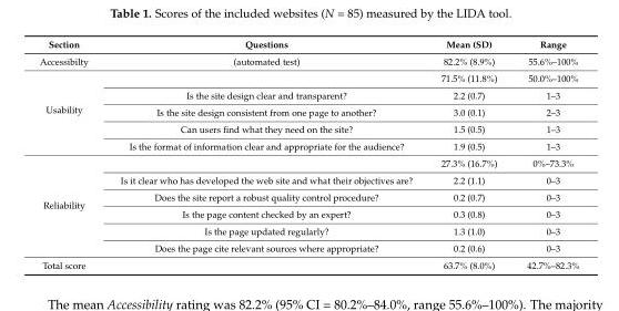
<table><thead><tr><td>Section</td><td>Questions</td><td>Mean (SD)</td><td>Range</td></tr></thead><tbody><tr><td>Accessibilty</td><td>(automated test)</td><td>82.2% (8.9%)</td><td>55.6%–100%</td></tr><tr><td rowspan="5">Usability</td><td></td><td>71.5% (11.8%)</td><td>50.0%–100%</td></tr><tr><td>Is the site design clear and transparent?</td><td>2.2 (0.7)</td><td>1–3</td></tr><tr><td>Is the site design consistent from one page to another?</td><td>3.0 (0.1)</td><td>2–3</td></tr><tr><td>Can users find what they need on the site?</td><td>1.5 (0.5)</td><td>1–3</td></tr><tr><td>Is the format of information clear and appropriate for the audience?</td><td>1.9 (0.5)</td><td>1–3</td></tr><tr><td rowspan="6">Reliability</td><td></td><td>27.3% (16.7%)</td><td>0%–73.3%</td></tr><tr><td>Is it clear who has developed the web site and what their objectives are?</td><td>2.2 (1.1)</td><td>0–3</td></tr><tr><td>Does the site report a robust quality control procedure?</td><td>0.2 (0.7)</td><td>0–3</td></tr><tr><td>Is the page content checked by an expert?</td><td>0.3 (0.8)</td><td>0–3</td></tr><tr><td>Is the page updated regularly?</td><td>1.3 (1.0)</td><td>0–3</td></tr><tr><td>Does the page cite relevant sources where appropriate?</td><td>0.2 (0.6)</td><td>0–3</td></tr><tr><td>Total score</td><td></td><td>63.7% (8.0%)</td><td>42.7%–82.3%</td></tr></tbody></table>